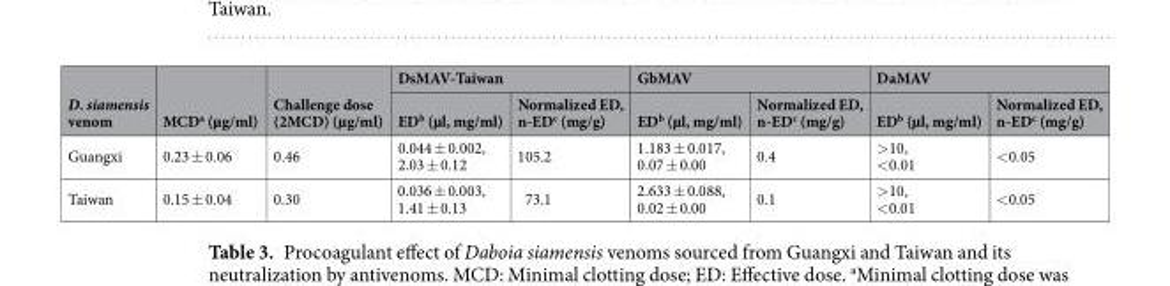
<table><thead><tr><td rowspan="2">D. siamensis venom</td><td rowspan="2">MCD<sup>a</sup> (µg/ml)</td><td rowspan="2">Challenge dose (2MCD) (µg/ml)</td><td colspan="2">DsMAV-Taiwan</td><td colspan="2">GbMAV</td><td colspan="2">DaMAV</td></tr><tr><td>ED<sup>b</sup> (µl, mg/ml)</td><td>Normalized ED, n-ED<sup>c</sup> (mg/g)</td><td>ED<sup>b</sup> (µl, mg/ml)</td><td>Normalized ED, n-ED<sup>c</sup> (mg/g)</td><td>ED<sup>b</sup> (µl, mg/ml)</td><td>Normalized ED, n-ED<sup>c</sup> (mg/g)</td></tr></thead><tbody><tr><td>Guangxi</td><td>0.23 ± 0.06</td><td>0.46</td><td>0.044 ± 0.002, 2.03 ± 0.12</td><td>105.2</td><td>1.183 ± 0.017, 0.07 ± 0.00</td><td>0.4</td><td>&gt;10, &lt;0.01</td><td>&lt;0.05</td></tr><tr><td>Taiwan</td><td>0.15 ± 0.04</td><td>0.30</td><td>0.036 ± 0.003, 1.41 ± 0.13</td><td>73.1</td><td>2.633 ± 0.088, 0.02 ± 0.00</td><td>0.1</td><td>&gt;10, &lt;0.01</td><td>&lt;0.05</td></tr></tbody></table>